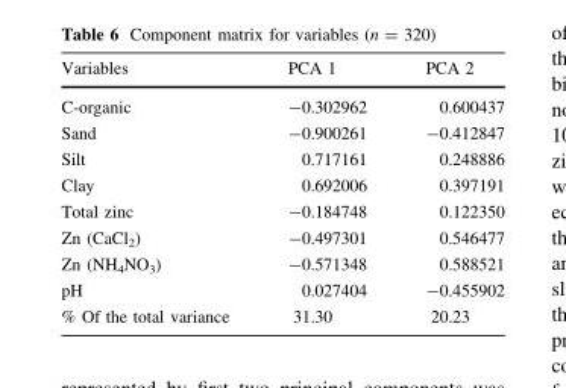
<table><thead><tr><td>Variables</td><td>PCA 1</td><td>PCA 2</td></tr></thead><tbody><tr><td>C-organic</td><td>-0.302962</td><td>0.600437</td></tr><tr><td>Sand</td><td>-0.900261</td><td>-0.412847</td></tr><tr><td>Silt</td><td>0.717161</td><td>0.248886</td></tr><tr><td>Clay</td><td>0.692006</td><td>0.397191</td></tr><tr><td>Total zinc</td><td>-0.184748</td><td>0.122350</td></tr><tr><td>Zn (CaCl<sub>2</sub>)</td><td>-0.497301</td><td>0.546477</td></tr><tr><td>Zn (NH<sub>4</sub>NO<sub>3</sub>)</td><td>-0.571348</td><td>0.588521</td></tr><tr><td>pH</td><td>0.027404</td><td>-0.455902</td></tr><tr><td>% Of the total variance</td><td>31.30</td><td>20.23</td></tr></tbody></table>